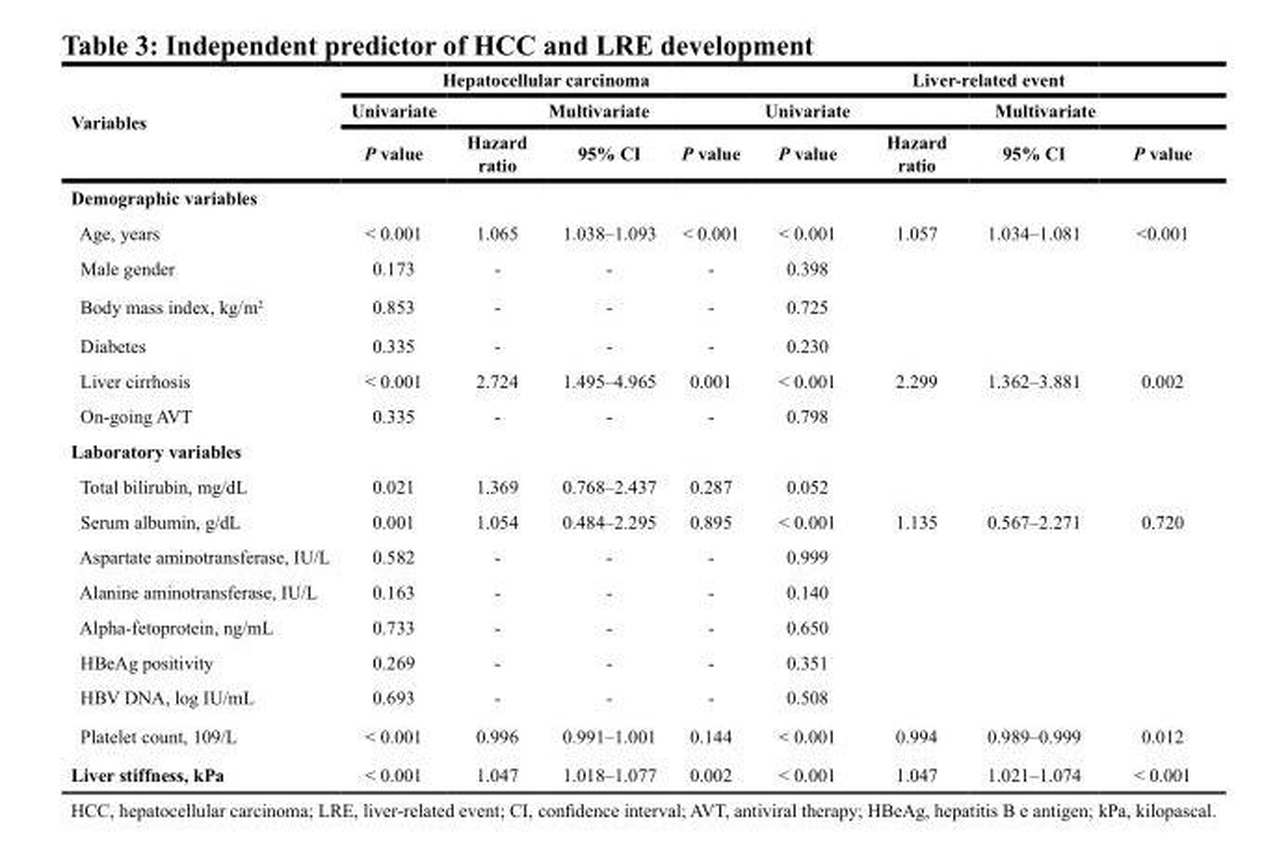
<table><thead><tr><td rowspan="3">Variables</td><td colspan="4">Hepatocellular carcinoma</td><td colspan="4">Liver-related event</td></tr><tr><td rowspan="2">Univariate P value</td><td colspan="3">Multivariate</td><td rowspan="2">Univariate P value</td><td colspan="3">Multivariate</td></tr><tr><td>Hazard ratio</td><td>95% CI</td><td>P value</td><td>Hazard ratio</td><td>95% CI</td><td>P value</td></tr></thead><tbody><tr><td colspan="9">Demographic variables</td></tr><tr><td>Age, years</td><td>&lt; 0.001</td><td>1.065</td><td>1.038–1.093</td><td>&lt; 0.001</td><td>&lt; 0.001</td><td>1.057</td><td>1.034–1.081</td><td>&lt;0.001</td></tr><tr><td>Male gender</td><td>0.173</td><td>-</td><td>-</td><td>-</td><td>0.398</td><td></td><td></td><td></td></tr><tr><td>Body mass index, kg/m<sup>2</sup></td><td>0.853</td><td>-</td><td>-</td><td>-</td><td>0.725</td><td></td><td></td><td></td></tr><tr><td>Diabetes</td><td>0.335</td><td>-</td><td>-</td><td>-</td><td>0.230</td><td></td><td></td><td></td></tr><tr><td>Liver cirrhosis</td><td>&lt; 0.001</td><td>2.724</td><td>1.495–4.965</td><td>0.001</td><td>&lt; 0.001</td><td>2.299</td><td>1.362–3.881</td><td>0.002</td></tr><tr><td>On-going AVT</td><td>0.335</td><td>-</td><td>-</td><td>-</td><td>0.798</td><td></td><td></td><td></td></tr><tr><td colspan="9">Laboratory variables</td></tr><tr><td>Total bilirubin, mg/dL</td><td>0.021</td><td>1.369</td><td>0.768–2.437</td><td>0.287</td><td>0.052</td><td></td><td></td><td></td></tr><tr><td>Serum albumin, g/dL</td><td>0.001</td><td>1.054</td><td>0.484–2.295</td><td>0.895</td><td>&lt; 0.001</td><td>1.135</td><td>0.567–2.271</td><td>0.720</td></tr><tr><td>Aspartate aminotransferase, IU/L</td><td>0.582</td><td>-</td><td>-</td><td>-</td><td>0.999</td><td></td><td></td><td></td></tr><tr><td>Alanine aminotransferase, IU/L</td><td>0.163</td><td>-</td><td>-</td><td>-</td><td>0.140</td><td></td><td></td><td></td></tr><tr><td>Alpha-fetoprotein, ng/mL</td><td>0.733</td><td>-</td><td>-</td><td>-</td><td>0.650</td><td></td><td></td><td></td></tr><tr><td>HBeAg positivity</td><td>0.269</td><td>-</td><td>-</td><td>-</td><td>0.351</td><td></td><td></td><td></td></tr><tr><td>HBV DNA, log IU/mL</td><td>0.693</td><td>-</td><td>-</td><td>-</td><td>0.508</td><td></td><td></td><td></td></tr><tr><td>Platelet count, 109/L</td><td>&lt; 0.001</td><td>0.996</td><td>0.991–1.001</td><td>0.144</td><td>&lt; 0.001</td><td>0.994</td><td>0.989–0.999</td><td>0.012</td></tr><tr><td>Liver stiffness, kPa</td><td>&lt; 0.001</td><td>1.047</td><td>1.018–1.077</td><td>0.002</td><td>&lt; 0.001</td><td>1.047</td><td>1.021–1.074</td><td>&lt; 0.001</td></tr></tbody></table>